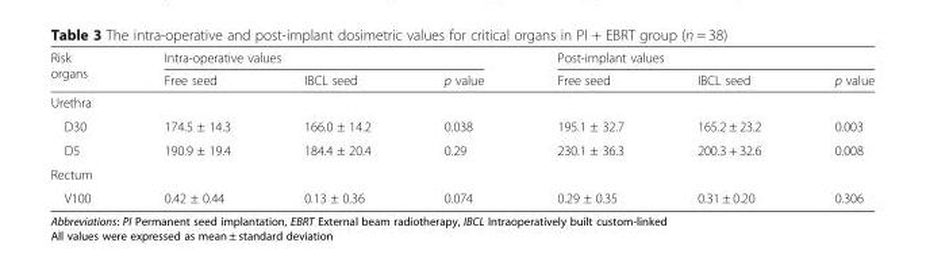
<table><thead><tr><td rowspan="2">Risk organs</td><td colspan="3">Intra-operative values</td><td colspan="3">Post-implant values</td></tr><tr><td>Free seed</td><td>IBCL seed</td><td>p value</td><td>Free seed</td><td>IBCL seed</td><td>p value</td></tr></thead><tbody><tr><td colspan="7">Urethra</td></tr><tr><td>D30</td><td>174.5 ± 14.3</td><td>166.0 ± 14.2</td><td>0.038</td><td>195.1 ± 32.7</td><td>165.2 ± 23.2</td><td>0.003</td></tr><tr><td>D5</td><td>190.9 ± 19.4</td><td>184.4 ± 20.4</td><td>0.29</td><td>230.1 ± 36.3</td><td>200.3 + 32.6</td><td>0.008</td></tr><tr><td colspan="7">Rectum</td></tr><tr><td>V100</td><td>0.42 ± 0.44</td><td>0.13 ± 0.36</td><td>0.074</td><td>0.29 ± 0.35</td><td>0.31 ± 0.20</td><td>0.306</td></tr></tbody></table>